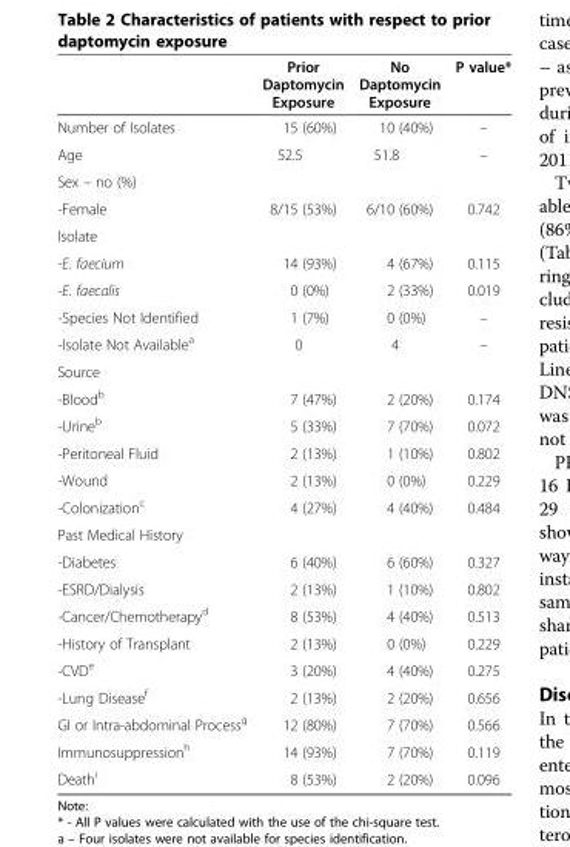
<table><thead><tr><td></td><td>Prior Daptomycin Exposure</td><td>No Daptomycin Exposure</td><td>P value*</td></tr></thead><tbody><tr><td>Number of Isolates</td><td>15 (60%)</td><td>10 (40%)</td><td>–</td></tr><tr><td>Age</td><td>52.5</td><td>51.8</td><td>–</td></tr><tr><td colspan="4">Sex – no (%)</td></tr><tr><td>-Female</td><td>8/15 (53%)</td><td>6/10 (60%)</td><td>0.742</td></tr><tr><td colspan="4">Isolate</td></tr><tr><td>-E. faecium</td><td>14 (93%)</td><td>4 (67%)</td><td>0.115</td></tr><tr><td>-E. faecalis</td><td>0 (0%)</td><td>2 (33%)</td><td>0.019</td></tr><tr><td>-Species Not Identified</td><td>1 (7%)</td><td>0 (0%)</td><td>–</td></tr><tr><td>-Isolate Not Available<sup>a</sup></td><td>0</td><td>4</td><td>–</td></tr><tr><td colspan="4">Source</td></tr><tr><td>-Blood<sup>b</sup></td><td>7 (47%)</td><td>2 (20%)</td><td>0.174</td></tr><tr><td>-Urine<sup>b</sup></td><td>5 (33%)</td><td>7 (70%)</td><td>0.072</td></tr><tr><td>-Peritoneal Fluid</td><td>2 (13%)</td><td>1 (10%)</td><td>0.802</td></tr><tr><td>-Wound</td><td>2 (13%)</td><td>0 (0%)</td><td>0.229</td></tr><tr><td>-Colonization<sup>c</sup></td><td>4 (27%)</td><td>4 (40%)</td><td>0.484</td></tr><tr><td colspan="4">Past Medical History</td></tr><tr><td>-Diabetes</td><td>6 (40%)</td><td>6 (60%)</td><td>0.327</td></tr><tr><td>-ESRD/Dialysis</td><td>2 (13%)</td><td>1 (10%)</td><td>0.802</td></tr><tr><td>-Cancer/Chemotherapy<sup>d</sup></td><td>8 (53%)</td><td>4 (40%)</td><td>0.513</td></tr><tr><td>-History of Transplant</td><td>2 (13%)</td><td>0 (0%)</td><td>0.229</td></tr><tr><td>-CVD<sup>e</sup></td><td>3 (20%)</td><td>4 (40%)</td><td>0.275</td></tr><tr><td>-Lung Disease<sup>f</sup></td><td>2 (13%)</td><td>2 (20%)</td><td>0.656</td></tr><tr><td>GI or Intra-abdominal Process<sup>g</sup></td><td>12 (80%)</td><td>7 (70%)</td><td>0.566</td></tr><tr><td>Immunosuppression<sup>h</sup></td><td>14 (93%)</td><td>7 (70%)</td><td>0.119</td></tr><tr><td>Death<sup>i</sup></td><td>8 (53%)</td><td>2 (20%)</td><td>0.096</td></tr></tbody></table>